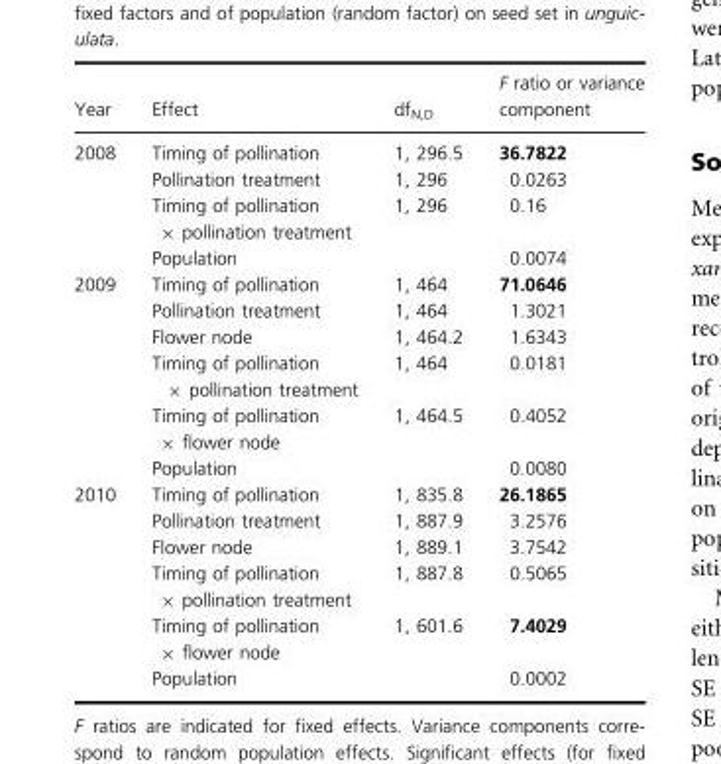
<table><thead><tr><td>Year</td><td>Effect</td><td>df<sub>N,D</sub></td><td>F ratio or variance component</td></tr></thead><tbody><tr><td rowspan="4">2008</td><td>Timing of pollination</td><td>1, 296.5</td><td>36.7822</td></tr><tr><td>Pollination treatment</td><td>1, 296</td><td>0.0263</td></tr><tr><td>Timing of pollination × pollination treatment</td><td>1, 296</td><td>0.16</td></tr><tr><td>Population</td><td></td><td>0.0074</td></tr><tr><td rowspan="6">2009</td><td>Timing of pollination</td><td>1, 464</td><td>71.0646</td></tr><tr><td>Pollination treatment</td><td>1, 464</td><td>1.3021</td></tr><tr><td>Flower node</td><td>1, 464.2</td><td>1.6343</td></tr><tr><td>Timing of pollination × pollination treatment</td><td>1, 464</td><td>0.0181</td></tr><tr><td>Timing of pollination × flower node</td><td>1, 464.5</td><td>0.4052</td></tr><tr><td>Population</td><td></td><td>0.0080</td></tr><tr><td rowspan="6">2010</td><td>Timing of pollination</td><td>1, 835.8</td><td>26.1865</td></tr><tr><td>Pollination treatment</td><td>1, 887.9</td><td>3.2576</td></tr><tr><td>Flower node</td><td>1, 889.1</td><td>3.7542</td></tr><tr><td>Timing of pollination × pollination treatment</td><td>1, 887.8</td><td>0.5065</td></tr><tr><td>Timing of pollination × flower node</td><td>1, 601.6</td><td>7.4029</td></tr><tr><td>Population</td><td></td><td>0.0002</td></tr></tbody></table>